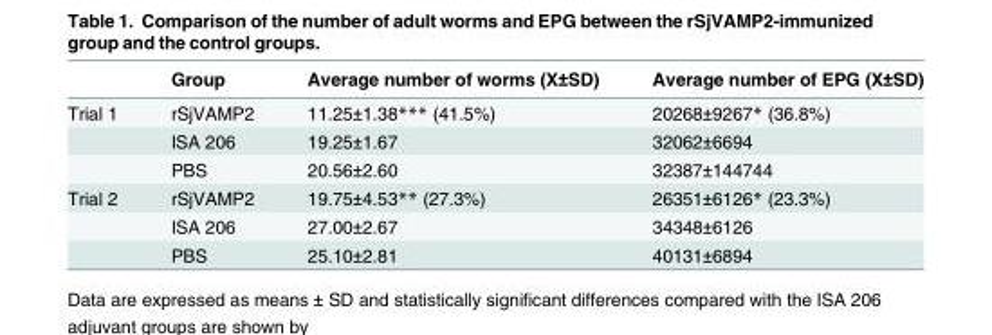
<table><thead><tr><td></td><td>Group</td><td>Average number of worms (X±SD)</td><td>Average number of EPG (X±SD)</td></tr></thead><tbody><tr><td rowspan="3">Trial 1</td><td>rSjVAMP2</td><td>11.25±1.38*** (41.5%)</td><td>20268±9267* (36.8%)</td></tr><tr><td>ISA 206</td><td>19.25±1.67</td><td>32062±6694</td></tr><tr><td>PBS</td><td>20.56±2.60</td><td>32387±144744</td></tr><tr><td rowspan="3">Trial 2</td><td>rSjVAMP2</td><td>19.75±4.53** (27.3%)</td><td>26351±6126* (23.3%)</td></tr><tr><td>ISA 206</td><td>27.00±2.67</td><td>34348±6126</td></tr><tr><td>PBS</td><td>25.10±2.81</td><td>40131±6894</td></tr></tbody></table>